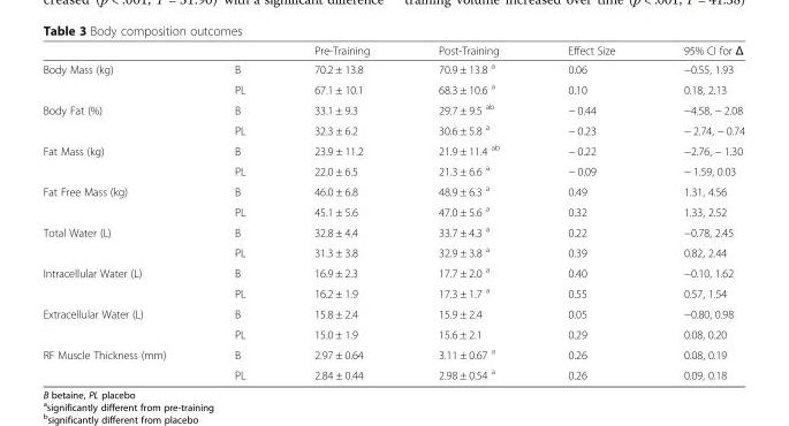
<table><thead><tr><td></td><td></td><td>Pre-Training</td><td>Post-Training</td><td>Effect Size</td><td>95% CI for Δ</td></tr></thead><tbody><tr><td rowspan="2">Body Mass (kg)</td><td>B</td><td>70.2 ± 13.8</td><td>70.9 ± 13.8 <sup>a</sup></td><td>0.06</td><td>−0.55, 1.93</td></tr><tr><td>PL</td><td>67.1 ± 10.1</td><td>68.3 ± 10.6 <sup>a</sup></td><td>0.10</td><td>0.18, 2.13</td></tr><tr><td rowspan="2">Body Fat (%)</td><td>B</td><td>33.1 ± 9.3</td><td>29.7 ± 9.5 <sup>ab</sup></td><td>− 0.44</td><td>−4.58, − 2.08</td></tr><tr><td>PL</td><td>32.3 ± 6.2</td><td>30.6 ± 5.8 <sup>a</sup></td><td>− 0.23</td><td>− 2.74, − 0.74</td></tr><tr><td rowspan="2">Fat Mass (kg)</td><td>B</td><td>23.9 ± 11.2</td><td>21.9 ± 11.4 <sup>ab</sup></td><td>− 0.22</td><td>−2.76, − 1.30</td></tr><tr><td>PL</td><td>22.0 ± 6.5</td><td>21.3 ± 6.6 <sup>a</sup></td><td>− 0.09</td><td>− 1.59, 0.03</td></tr><tr><td rowspan="2">Fat Free Mass (kg)</td><td>B</td><td>46.0 ± 6.8</td><td>48.9 ± 6.3 <sup>a</sup></td><td>0.49</td><td>1.31, 4.56</td></tr><tr><td>PL</td><td>45.1 ± 5.6</td><td>47.0 ± 5.6 <sup>a</sup></td><td>0.32</td><td>1.33, 2.52</td></tr><tr><td rowspan="2">Total Water (L)</td><td>B</td><td>32.8 ± 4.4</td><td>33.7 ± 4.3 <sup>a</sup></td><td>0.22</td><td>−0.78, 2.45</td></tr><tr><td>PL</td><td>31.3 ± 3.8</td><td>32.9 ± 3.8 <sup>a</sup></td><td>0.39</td><td>0.82, 2.44</td></tr><tr><td rowspan="2">Intracellular Water (L)</td><td>B</td><td>16.9 ± 2.3</td><td>17.7 ± 2.0 <sup>a</sup></td><td>0.40</td><td>−0.10, 1.62</td></tr><tr><td>PL</td><td>16.2 ± 1.9</td><td>17.3 ± 1.7 <sup>a</sup></td><td>0.55</td><td>0.57, 1.54</td></tr><tr><td rowspan="2">Extracellular Water (L)</td><td>B</td><td>15.8 ± 2.4</td><td>15.9 ± 2.4</td><td>0.05</td><td>−0.80, 0.98</td></tr><tr><td>PL</td><td>15.0 ± 1.9</td><td>15.6 ± 2.1</td><td>0.29</td><td>0.08, 0.20</td></tr><tr><td rowspan="2">RF Muscle Thickness (mm)</td><td>B</td><td>2.97 ± 0.64</td><td>3.11 ± 0.67 <sup>a</sup></td><td>0.26</td><td>0.08, 0.19</td></tr><tr><td>PL</td><td>2.84 ± 0.44</td><td>2.98 ± 0.54 <sup>a</sup></td><td>0.26</td><td>0.09, 0.18</td></tr></tbody></table>